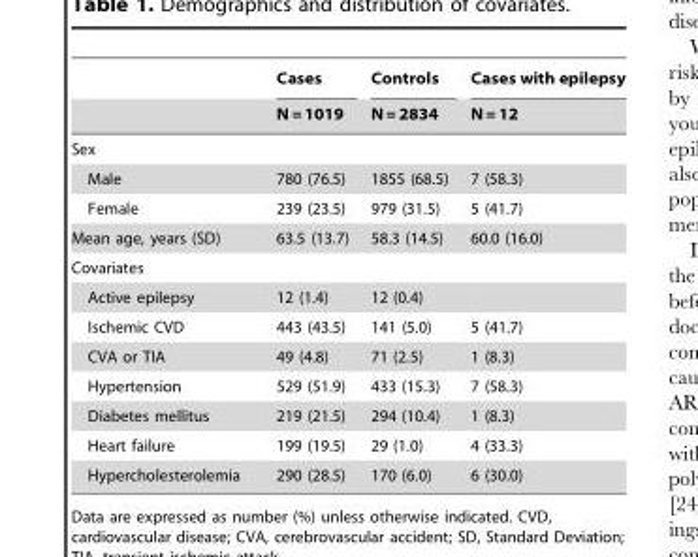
<table><thead><tr><td rowspan="2"></td><td rowspan="2">Cases N = 1019</td><td rowspan="2">Controls N = 2834</td><td rowspan="2">Cases with epilepsy N = 12</td></tr><tr></tr></thead><tbody><tr><td colspan="4">Sex</td></tr><tr><td>Male</td><td>780 (76.5)</td><td>1855 (68.5)</td><td>7 (58.3)</td></tr><tr><td>Female</td><td>239 (23.5)</td><td>979 (31.5)</td><td>5 (41.7)</td></tr><tr><td>Mean age, years (SD)</td><td>63.5 (13.7)</td><td>58.3 (14.5)</td><td>60.0 (16.0)</td></tr><tr><td colspan="4">Covariates</td></tr><tr><td>Active epilepsy</td><td>12 (1.4)</td><td>12 (0.4)</td><td></td></tr><tr><td>Ischemic CVD</td><td>443 (43.5)</td><td>141 (5.0)</td><td>5 (41.7)</td></tr><tr><td>CVA or TIA</td><td>49 (4.8)</td><td>71 (2.5)</td><td>1 (8.3)</td></tr><tr><td>Hypertension</td><td>529 (51.9)</td><td>433 (15.3)</td><td>7 (58.3)</td></tr><tr><td>Diabetes mellitus</td><td>219 (21.5)</td><td>294 (10.4)</td><td>1 (8.3)</td></tr><tr><td>Heart failure</td><td>199 (19.5)</td><td>29 (1.0)</td><td>4 (33.3)</td></tr><tr><td>Hypercholesterolemia</td><td>290 (28.5)</td><td>170 (6.0)</td><td>6 (30.0)</td></tr></tbody></table>